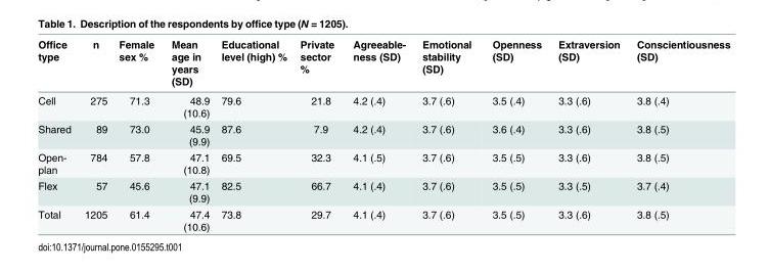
<table><thead><tr><td>Office type</td><td>n</td><td>Female sex %</td><td>Mean age in years (SD)</td><td>Educational level (high) %</td><td>Private sector %</td><td>Agreeable- ness (SD)</td><td>Emotional stability (SD)</td><td>Openness (SD)</td><td>Extraversion (SD)</td><td>Conscientiousness (SD)</td></tr></thead><tbody><tr><td>Cell</td><td>275</td><td>71.3</td><td>48.9 (10.6)</td><td>79.6</td><td>21.8</td><td>4.2 (.4)</td><td>3.7 (.6)</td><td>3.5 (.4)</td><td>3.3 (.6)</td><td>3.8 (.4)</td></tr><tr><td>Shared</td><td>89</td><td>73.0</td><td>45.9 (9.9)</td><td>87.6</td><td>7.9</td><td>4.2 (.4)</td><td>3.7 (.6)</td><td>3.6 (.4)</td><td>3.3 (.6)</td><td>3.8 (.5)</td></tr><tr><td>Open- plan</td><td>784</td><td>57.8</td><td>47.1 (10.8)</td><td>69.5</td><td>32.3</td><td>4.1 (.5)</td><td>3.7 (.6)</td><td>3.5 (.5)</td><td>3.3 (.6)</td><td>3.8 (.5)</td></tr><tr><td>Flex</td><td>57</td><td>45.6</td><td>47.1 (9.9)</td><td>82.5</td><td>66.7</td><td>4.1 (.4)</td><td>3.7 (.6)</td><td>3.5 (.5)</td><td>3.3 (.5)</td><td>3.7 (.4)</td></tr><tr><td>Total</td><td>1205</td><td>61.4</td><td>47.4 (10.6)</td><td>73.8</td><td>29.7</td><td>4.1 (.4)</td><td>3.7 (.6)</td><td>3.5 (.5)</td><td>3.3 (.6)</td><td>3.8 (.5)</td></tr></tbody></table>